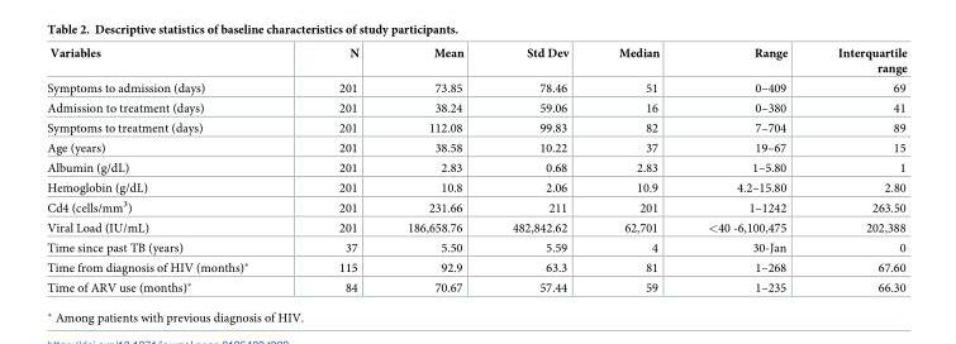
<table><thead><tr><td>Variables</td><td>N</td><td>Mean</td><td>Std Dev</td><td>Median</td><td>Range</td><td>Interquartile range</td></tr></thead><tbody><tr><td>Symptoms to admission (days)</td><td>201</td><td>73.85</td><td>78.46</td><td>51</td><td>0–409</td><td>69</td></tr><tr><td>Admission to treatment (days)</td><td>201</td><td>38.24</td><td>59.06</td><td>16</td><td>0–380</td><td>41</td></tr><tr><td>Symptoms to treatment (days)</td><td>201</td><td>112.08</td><td>99.83</td><td>82</td><td>7–704</td><td>89</td></tr><tr><td>Age (years)</td><td>201</td><td>38.58</td><td>10.22</td><td>37</td><td>19–67</td><td>15</td></tr><tr><td>Albumin (g/dL)</td><td>201</td><td>2.83</td><td>0.68</td><td>2.83</td><td>1–5.80</td><td>1</td></tr><tr><td>Hemoglobin (g/dL)</td><td>201</td><td>10.8</td><td>2.06</td><td>10.9</td><td>4.2–15.80</td><td>2.80</td></tr><tr><td>Cd4 (cells/mm<sup>3</sup>)</td><td>201</td><td>231.66</td><td>211</td><td>201</td><td>1–1242</td><td>263.50</td></tr><tr><td>Viral Load (IU/mL)</td><td>201</td><td>186,658.76</td><td>482,842.62</td><td>62,701</td><td>&lt;40 -6,100,475</td><td>202,388</td></tr><tr><td>Time since past TB (years)</td><td>37</td><td>5.50</td><td>5.59</td><td>4</td><td>30-Jan</td><td>0</td></tr><tr><td>Time from diagnosis of HIV (months)*</td><td>115</td><td>92.9</td><td>63.3</td><td>81</td><td>1–268</td><td>67.60</td></tr><tr><td>Time of ARV use (months)*</td><td>84</td><td>70.67</td><td>57.44</td><td>59</td><td>1–235</td><td>66.30</td></tr></tbody></table>